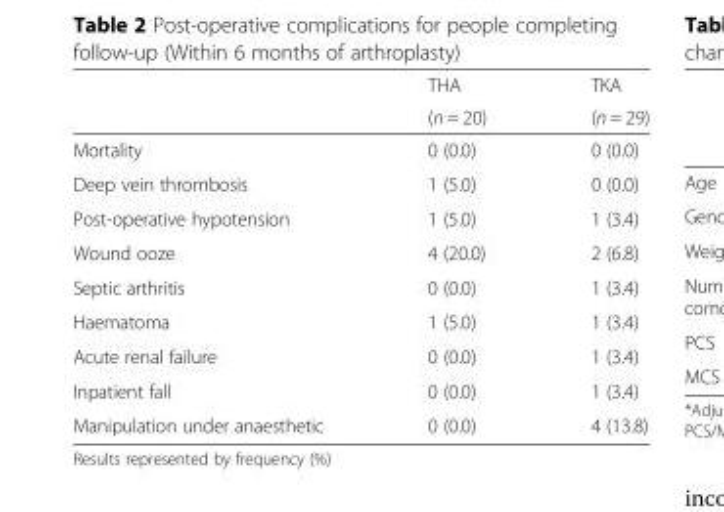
<table><thead><tr><td rowspan="2"></td><td rowspan="2">THA (n = 20)</td><td rowspan="2">TKA (n = 29)</td></tr><tr></tr></thead><tbody><tr><td>Mortality</td><td>0 (0.0)</td><td>0 (0.0)</td></tr><tr><td>Deep vein thrombosis</td><td>1 (5.0)</td><td>0 (0.0)</td></tr><tr><td>Post-operative hypotension</td><td>1 (5.0)</td><td>1 (3.4)</td></tr><tr><td>Wound ooze</td><td>4 (20.0)</td><td>2 (6.8)</td></tr><tr><td>Septic arthritis</td><td>0 (0.0)</td><td>1 (3.4)</td></tr><tr><td>Haematoma</td><td>1 (5.0)</td><td>1 (3.4)</td></tr><tr><td>Acute renal failure</td><td>0 (0.0)</td><td>1 (3.4)</td></tr><tr><td>Inpatient fall</td><td>0 (0.0)</td><td>1 (3.4)</td></tr><tr><td>Manipulation under anaesthetic</td><td>0 (0.0)</td><td>4 (13.8)</td></tr></tbody></table>